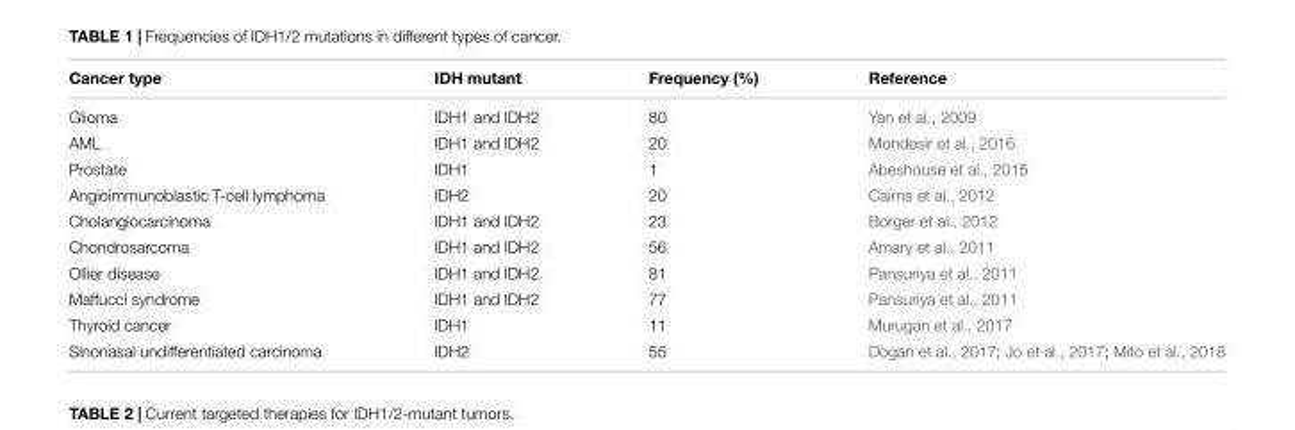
<table><thead><tr><td>Cancer type</td><td>IDH mutant</td><td>Frequency (%)</td><td>Reference</td></tr></thead><tbody><tr><td>Glioma</td><td>IDH1 and IDH2</td><td>80</td><td>Yan et al., 2009</td></tr><tr><td>AML</td><td>IDH1 and IDH2</td><td>20</td><td>Mondesir et al., 2016</td></tr><tr><td>Prostate</td><td>IDH1</td><td>1</td><td>Abeshouse et al., 2015</td></tr><tr><td>Angioimmunoblastic T-cell lymphoma</td><td>IDH2</td><td>20</td><td>Cairns et al., 2012</td></tr><tr><td>Cholangiocarcinoma</td><td>IDH1 and IDH2</td><td>23</td><td>Borger et al., 2012</td></tr><tr><td>Chondrosarcoma</td><td>IDH1 and IDH2</td><td>56</td><td>Amary et al., 2011</td></tr><tr><td>Ollier disease</td><td>IDH1 and IDH2</td><td>81</td><td>Pansuriya et al., 2011</td></tr><tr><td>Maffucci syndrome</td><td>IDH1 and IDH2</td><td>77</td><td>Pansuriya et al., 2011</td></tr><tr><td>Thyroid cancer</td><td>IDH1</td><td>11</td><td>Murugan et al., 2017</td></tr><tr><td>Sinonasal undifferentiated carcinoma</td><td>IDH2</td><td>55</td><td>Dogan et al., 2017; Jo et al., 2017; Mito et al., 2018</td></tr></tbody></table>